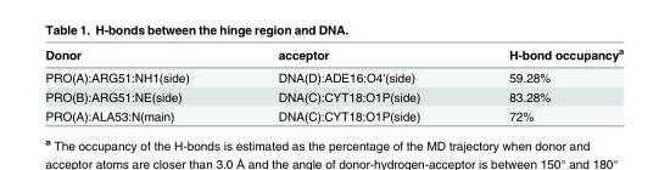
<table><thead><tr><td>Donor</td><td>acceptor</td><td>H-bond occupancy<sup>a</sup></td></tr></thead><tbody><tr><td>PRO(A):ARG51:NH1(side)</td><td>DNA(D):ADE16:O4&#x27;(side)</td><td>59.28%</td></tr><tr><td>PRO(B):ARG51:NE(side)</td><td>DNA(C):CYT18:O1P(side)</td><td>83.28%</td></tr><tr><td>PRO(A):ALA53:N(main)</td><td>DNA(C):CYT18:O1P(side)</td><td>72%</td></tr></tbody></table>